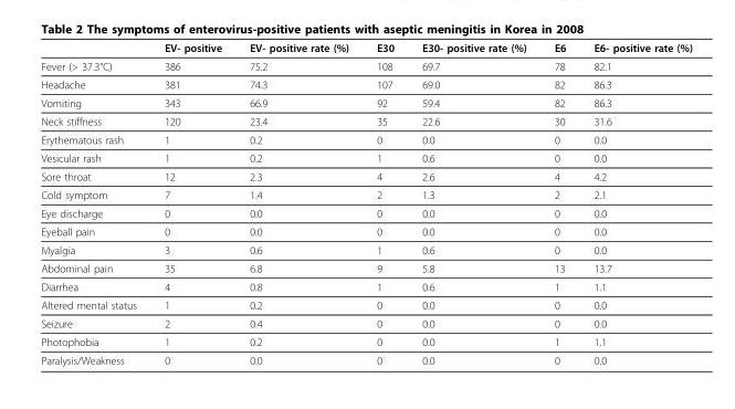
<table><thead><tr><td></td><td>EV- positive</td><td>EV- positive rate (%)</td><td>E30</td><td>E30- positive rate (%)</td><td>E6</td><td>E6- positive rate (%)</td></tr></thead><tbody><tr><td>Fever (&gt; 37.3°C)</td><td>386</td><td>75.2</td><td>108</td><td>69.7</td><td>78</td><td>82.1</td></tr><tr><td>Headache</td><td>381</td><td>74.3</td><td>107</td><td>69.0</td><td>82</td><td>86.3</td></tr><tr><td>Vomiting</td><td>343</td><td>66.9</td><td>92</td><td>59.4</td><td>82</td><td>86.3</td></tr><tr><td>Neck stiffness</td><td>120</td><td>23.4</td><td>35</td><td>22.6</td><td>30</td><td>31.6</td></tr><tr><td>Erythematous rash</td><td>1</td><td>0.2</td><td>0</td><td>0.0</td><td>0</td><td>0.0</td></tr><tr><td>Vesicular rash</td><td>1</td><td>0.2</td><td>1</td><td>0.6</td><td>0</td><td>0.0</td></tr><tr><td>Sore throat</td><td>12</td><td>2.3</td><td>4</td><td>2.6</td><td>4</td><td>4.2</td></tr><tr><td>Cold symptom</td><td>7</td><td>1.4</td><td>2</td><td>1.3</td><td>2</td><td>2.1</td></tr><tr><td>Eye discharge</td><td>0</td><td>0.0</td><td>0</td><td>0.0</td><td>0</td><td>0.0</td></tr><tr><td>Eyeball pain</td><td>0</td><td>0.0</td><td>0</td><td>0.0</td><td>0</td><td>0.0</td></tr><tr><td>Myalgia</td><td>3</td><td>0.6</td><td>1</td><td>0.6</td><td>0</td><td>0.0</td></tr><tr><td>Abdominal pain</td><td>35</td><td>6.8</td><td>9</td><td>5.8</td><td>13</td><td>13.7</td></tr><tr><td>Diarrhea</td><td>4</td><td>0.8</td><td>1</td><td>0.6</td><td>1</td><td>1.1</td></tr><tr><td>Altered mental status</td><td>1</td><td>0.2</td><td>0</td><td>0.0</td><td>0</td><td>0.0</td></tr><tr><td>Seizure</td><td>2</td><td>0.4</td><td>0</td><td>0.0</td><td>0</td><td>0.0</td></tr><tr><td>Photophobia</td><td>1</td><td>0.2</td><td>0</td><td>0.0</td><td>1</td><td>1.1</td></tr><tr><td>Paralysis/Weakness</td><td>0</td><td>0.0</td><td>0</td><td>0.0</td><td>0</td><td>0.0</td></tr></tbody></table>